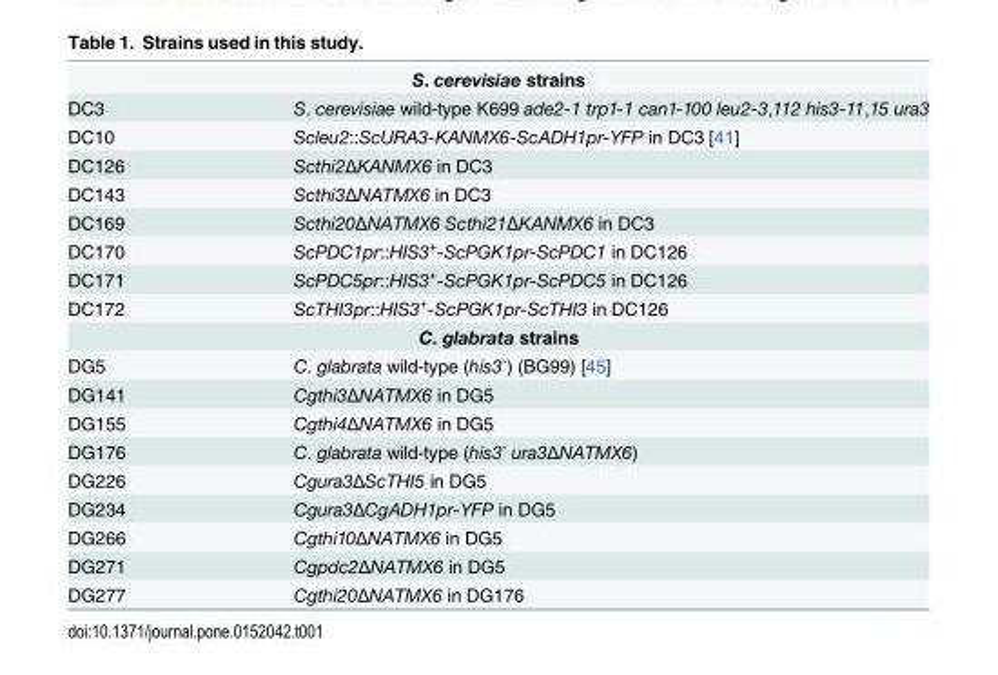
<table><tbody><tr><td colspan="2">S. cerevisiae strains</td></tr><tr><td>DC3</td><td>S. cerevisiae wild-type K699 ade2-1 trp1-1 can1-100 leu2-3,112 his3-11,15 ura3</td></tr><tr><td>DC10</td><td>Scleu2::ScURA3-KANMX6-ScADH1pr-YFP in DC3 [41]</td></tr><tr><td>DC126</td><td>Scthi2ΔKANMX6 in DC3</td></tr><tr><td>DC143</td><td>Scthi3ΔNATMX6 in DC3</td></tr><tr><td>DC169</td><td>Scthi20ΔNATMX6 Scthi21ΔKANMX6 in DC3</td></tr><tr><td>DC170</td><td>ScPDC1pr::HIS3<sup>+</sup>-ScPGK1pr-ScPDC1 in DC126</td></tr><tr><td>DC171</td><td>ScPDC5pr::HIS3<sup>+</sup>-ScPGK1pr-ScPDC5 in DC126</td></tr><tr><td>DC172</td><td>ScTHI3pr::HIS3<sup>+</sup>-ScPGK1pr-ScTHI3 in DC126</td></tr><tr><td colspan="2">C. glabrata strains</td></tr><tr><td>DG5</td><td>C. glabrata wild-type (his3<sup>-</sup>) (BG99) [45]</td></tr><tr><td>DG141</td><td>Cgthi3ΔNATMX6 in DG5</td></tr><tr><td>DG155</td><td>Cgthi4ΔNATMX6 in DG5</td></tr><tr><td>DG176</td><td>C. glabrata wild-type (his3<sup>-</sup> ura3ΔNATMX6)</td></tr><tr><td>DG226</td><td>Cgura3ΔScTHI5 in DG5</td></tr><tr><td>DG234</td><td>Cgura3ΔCgADH1pr-YFP in DG5</td></tr><tr><td>DG266</td><td>Cgthi10ΔNATMX6 in DG5</td></tr><tr><td>DG271</td><td>Cgpdc2ΔNATMX6 in DG5</td></tr><tr><td>DG277</td><td>Cgthi20ΔNATMX6 in DG176</td></tr></tbody></table>